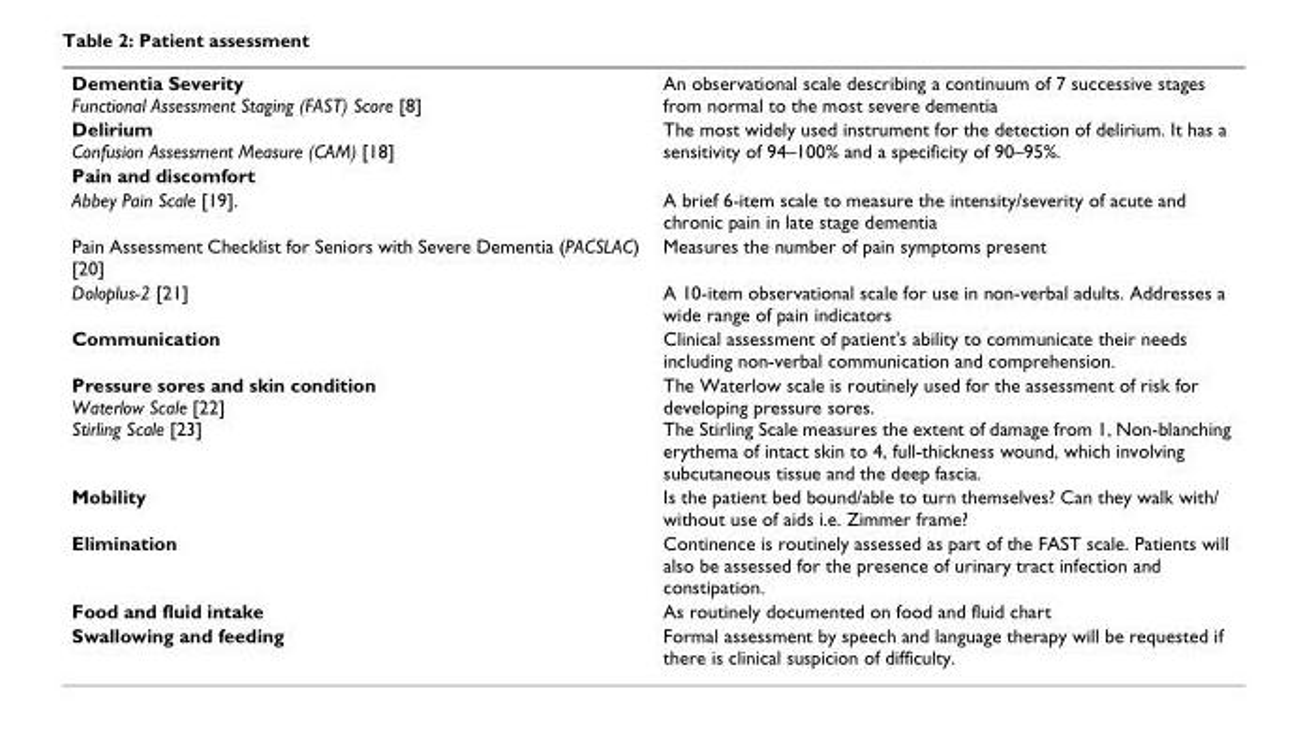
<table><tbody><tr><td>Dementia Severity Functional Assessment Staging (FAST) Score [8]</td><td>An observational scale describing a continuum of 7 successive stages from normal to the most severe dementia</td></tr><tr><td>Delirium Confusion Assessment Measure (CAM) [18]</td><td>The most widely used instrument for the detection of delirium. It has a sensitivity of 94–100% and a specificity of 90–95%.</td></tr><tr><td colspan="2">Pain and discomfort</td></tr><tr><td>Abbey Pain Scale [19].</td><td>A brief 6-item scale to measure the intensity/severity of acute and chronic pain in late stage dementia</td></tr><tr><td>Pain Assessment Checklist for Seniors with Severe Dementia (PACSLAC) [20]</td><td>Measures the number of pain symptoms present</td></tr><tr><td>Doloplus-2 [21]</td><td>A 10-item observational scale for use in non-verbal adults. Addresses a wide range of pain indicators</td></tr><tr><td>Communication</td><td>Clinical assessment of patient&#x27;s ability to communicate their needs including non-verbal communication and comprehension.</td></tr><tr><td>Pressure sores and skin condition Waterlow Scale [22] Stirling Scale [23]</td><td>The Waterlow scale is routinely used for the assessment of risk for developing pressure sores. The Stirling Scale measures the extent of damage from 1, Non-blanching erythema of intact skin to 4, full-thickness wound, which involving subcutaneous tissue and the deep fascia.</td></tr><tr><td>Mobility</td><td>Is the patient bed bound/able to turn themselves? Can they walk with/ without use of aids i.e. Zimmer frame?</td></tr><tr><td>Elimination</td><td>Continence is routinely assessed as part of the FAST scale. Patients will also be assessed for the presence of urinary tract infection and constipation.</td></tr><tr><td>Food and fluid intake</td><td>As routinely documented on food and fluid chart</td></tr><tr><td>Swallowing and feeding</td><td>Formal assessment by speech and language therapy will be requested if there is clinical suspicion of difficulty.</td></tr></tbody></table>